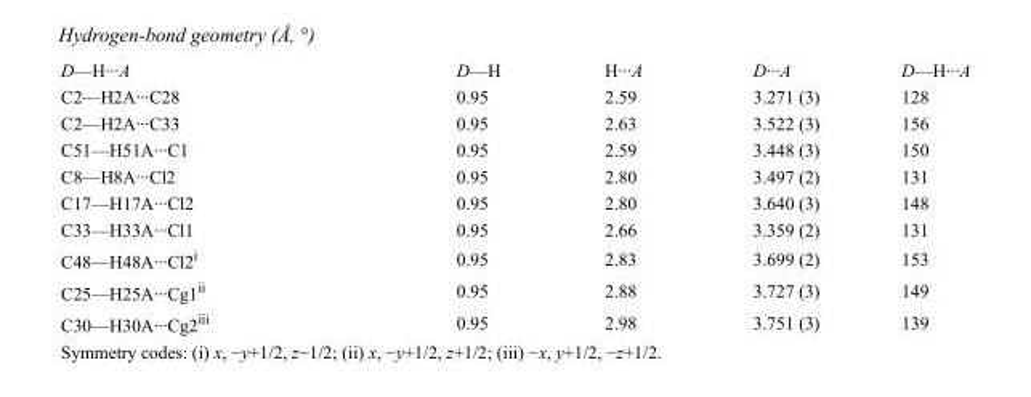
<table><tbody><tr><td>D—H···A</td><td>D—H</td><td>H···A</td><td>D···A</td><td>D—H···A</td></tr><tr><td>C2—H2A···C28</td><td>0.95</td><td>2.59</td><td>3.271 (3)</td><td>128</td></tr><tr><td>C2—H2A···C33</td><td>0.95</td><td>2.63</td><td>3.522 (3)</td><td>156</td></tr><tr><td>C51—H51A···C1</td><td>0.95</td><td>2.59</td><td>3.448 (3)</td><td>150</td></tr><tr><td>C8—H8A···Cl2</td><td>0.95</td><td>2.80</td><td>3.497 (2)</td><td>131</td></tr><tr><td>C17—H17A···Cl2</td><td>0.95</td><td>2.80</td><td>3.640 (3)</td><td>148</td></tr><tr><td>C33—H33A···Cl1</td><td>0.95</td><td>2.66</td><td>3.359 (2)</td><td>131</td></tr><tr><td>C48—H48A···Cl2<sup>i</sup></td><td>0.95</td><td>2.83</td><td>3.699 (2)</td><td>153</td></tr><tr><td>C25—H25A···Cg1<sup>ii</sup></td><td>0.95</td><td>2.88</td><td>3.727 (3)</td><td>149</td></tr><tr><td>C30—H30A···Cg2<sup>iii</sup></td><td>0.95</td><td>2.98</td><td>3.751 (3)</td><td>139</td></tr></tbody></table>